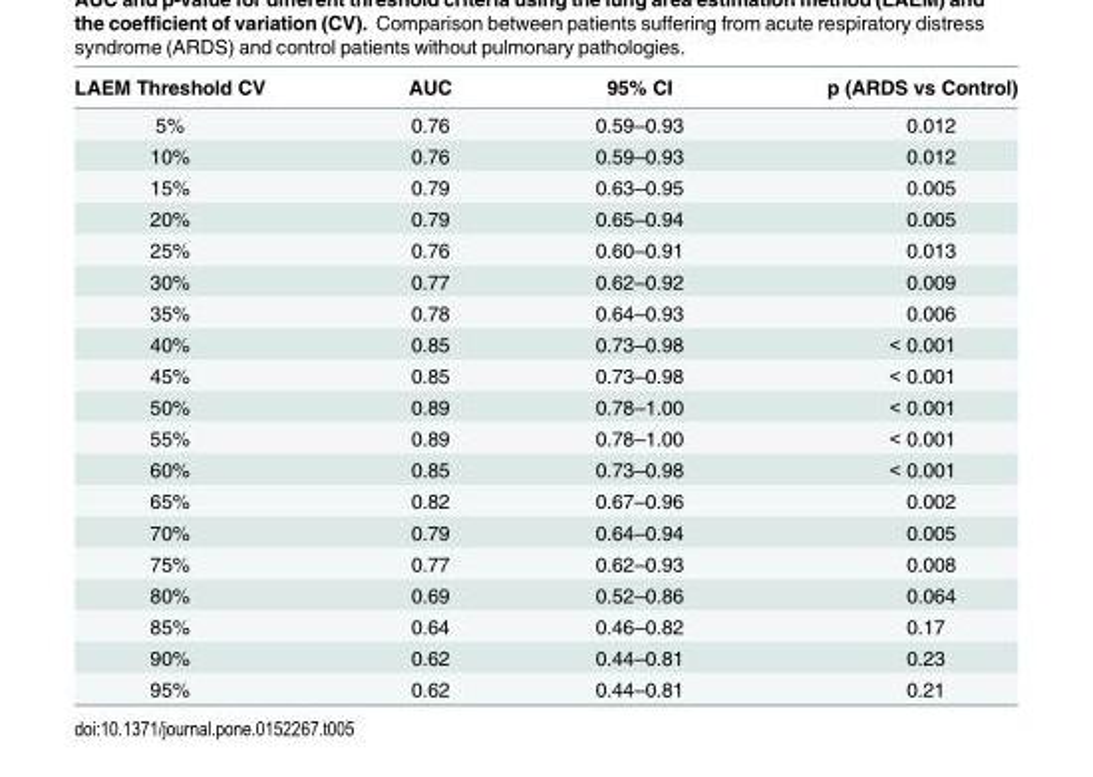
<table><thead><tr><td>LAEM Threshold CV</td><td>AUC</td><td>95% CI</td><td>p (ARDS vs Control)</td></tr></thead><tbody><tr><td>5%</td><td>0.76</td><td>0.59–0.93</td><td>0.012</td></tr><tr><td>10%</td><td>0.76</td><td>0.59–0.93</td><td>0.012</td></tr><tr><td>15%</td><td>0.79</td><td>0.63–0.95</td><td>0.005</td></tr><tr><td>20%</td><td>0.79</td><td>0.65–0.94</td><td>0.005</td></tr><tr><td>25%</td><td>0.76</td><td>0.60–0.91</td><td>0.013</td></tr><tr><td>30%</td><td>0.77</td><td>0.62–0.92</td><td>0.009</td></tr><tr><td>35%</td><td>0.78</td><td>0.64–0.93</td><td>0.006</td></tr><tr><td>40%</td><td>0.85</td><td>0.73–0.98</td><td>&lt; 0.001</td></tr><tr><td>45%</td><td>0.85</td><td>0.73–0.98</td><td>&lt; 0.001</td></tr><tr><td>50%</td><td>0.89</td><td>0.78–1.00</td><td>&lt; 0.001</td></tr><tr><td>55%</td><td>0.89</td><td>0.78–1.00</td><td>&lt; 0.001</td></tr><tr><td>60%</td><td>0.85</td><td>0.73–0.98</td><td>&lt; 0.001</td></tr><tr><td>65%</td><td>0.82</td><td>0.67–0.96</td><td>0.002</td></tr><tr><td>70%</td><td>0.79</td><td>0.64–0.94</td><td>0.005</td></tr><tr><td>75%</td><td>0.77</td><td>0.62–0.93</td><td>0.008</td></tr><tr><td>80%</td><td>0.69</td><td>0.52–0.86</td><td>0.064</td></tr><tr><td>85%</td><td>0.64</td><td>0.46–0.82</td><td>0.17</td></tr><tr><td>90%</td><td>0.62</td><td>0.44–0.81</td><td>0.23</td></tr><tr><td>95%</td><td>0.62</td><td>0.44–0.81</td><td>0.21</td></tr></tbody></table>